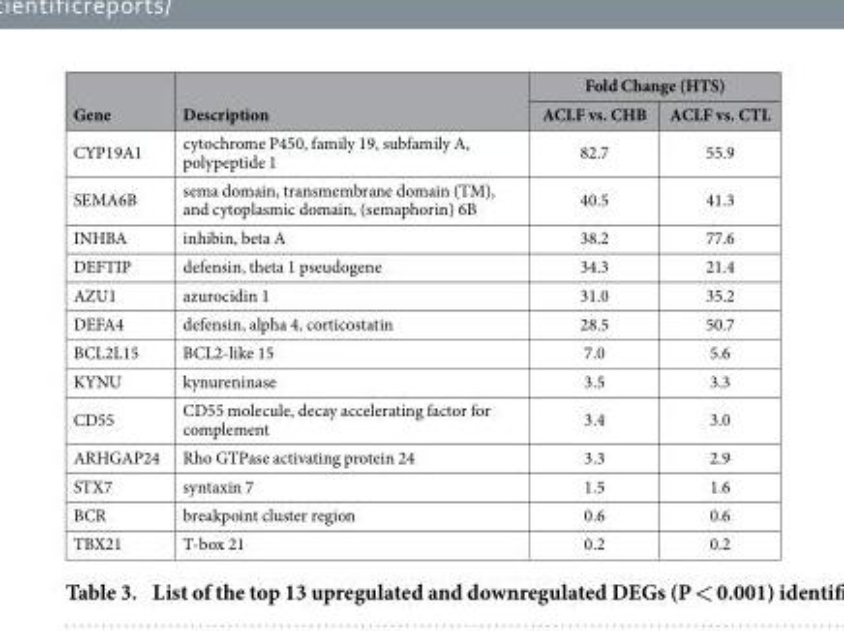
<table><thead><tr><td rowspan="2">Gene</td><td rowspan="2">Description</td><td colspan="2">Fold Change (HTS)</td></tr><tr><td>ACLF vs. CHB</td><td>ACLF vs. CTL</td></tr></thead><tbody><tr><td>CYP19A1</td><td>cytochrome P450, family 19, subfamily A, polypeptide 1</td><td>82.7</td><td>55.9</td></tr><tr><td>SEMA6B</td><td>sema domain, transmembrane domain (TM), and cytoplasmic domain, (semaphorin) 6B</td><td>40.5</td><td>41.3</td></tr><tr><td>INHBA</td><td>inhibin, beta A</td><td>38.2</td><td>77.6</td></tr><tr><td>DEFTIP</td><td>defensin, theta 1 pseudogene</td><td>34.3</td><td>21.4</td></tr><tr><td>AZU1</td><td>azurocidin 1</td><td>31.0</td><td>35.2</td></tr><tr><td>DEFA4</td><td>defensin, alpha 4, corticostatin</td><td>28.5</td><td>50.7</td></tr><tr><td>BCL2L15</td><td>BCL2-like 15</td><td>7.0</td><td>5.6</td></tr><tr><td>KYNU</td><td>kynureninase</td><td>3.5</td><td>3.3</td></tr><tr><td>CD55</td><td>CD55 molecule, decay accelerating factor for complement</td><td>3.4</td><td>3.0</td></tr><tr><td>ARHGAP24</td><td>Rho GTPase activating protein 24</td><td>3.3</td><td>2.9</td></tr><tr><td>STX7</td><td>syntaxin 7</td><td>1.5</td><td>1.6</td></tr><tr><td>BCR</td><td>breakpoint cluster region</td><td>0.6</td><td>0.6</td></tr><tr><td>TBX21</td><td>T-box 21</td><td>0.2</td><td>0.2</td></tr></tbody></table>